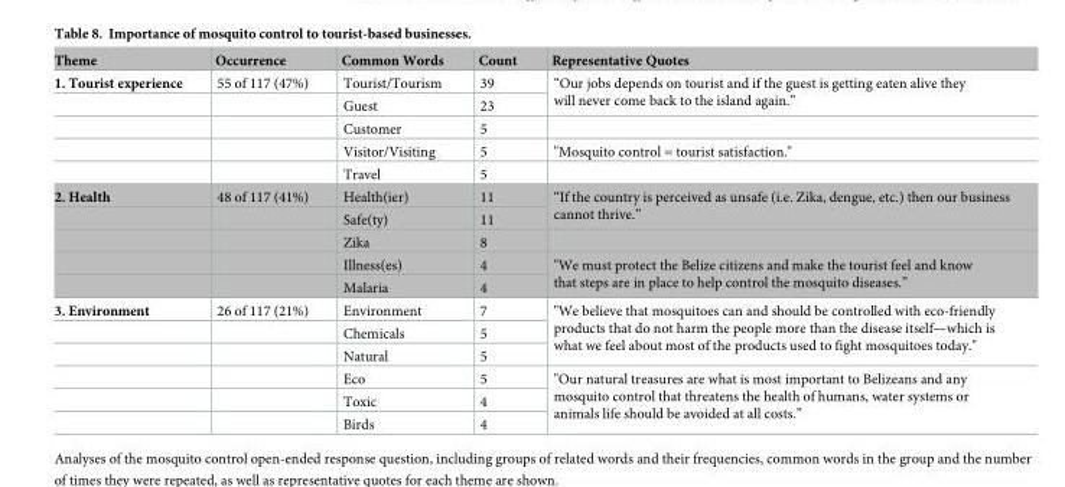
<table><thead><tr><td>Theme</td><td>Occurrence</td><td>Common Words</td><td>Count</td><td>Representative Quotes</td></tr></thead><tbody><tr><td rowspan="5">1. Tourist experience</td><td>55 of 117 (47%)</td><td>Tourist/Tourism</td><td>39</td><td rowspan="2">“Our jobs depends on tourist and if the guest is getting eaten alive they will never come back to the island again.”</td></tr><tr><td></td><td>Guest</td><td>23</td></tr><tr><td></td><td>Customer</td><td>5</td><td></td></tr><tr><td></td><td>Visitor/Visiting</td><td>5</td><td>&quot;Mosquito control = tourist satisfaction.&quot;</td></tr><tr><td></td><td>Travel</td><td>5</td><td></td></tr><tr><td rowspan="5">2. Health</td><td>48 of 117 (41%)</td><td>Health(ier)</td><td>11</td><td rowspan="2">“If the country is perceived as unsafe (i.e. Zika, dengue, etc.) then our business cannot thrive.”</td></tr><tr><td></td><td>Safe(ty)</td><td>11</td></tr><tr><td></td><td>Zika</td><td>8</td><td></td></tr><tr><td></td><td>Illness(es)</td><td>4</td><td rowspan="2">&quot;We must protect the Belize citizens and make the tourist feel and know that steps are in place to help control the mosquito diseases.”</td></tr><tr><td></td><td>Malaria</td><td>4</td></tr><tr><td rowspan="6">3. Environment</td><td>26 of 117 (21%)</td><td>Environment</td><td>7</td><td rowspan="3">&quot;We believe that mosquitoes can and should be controlled with eco-friendly products that do not harm the people more than the disease itself—which is what we feel about most of the products used to fight mosquitoes today.&quot;</td></tr><tr><td></td><td>Chemicals</td><td>5</td></tr><tr><td></td><td>Natural</td><td>5</td></tr><tr><td></td><td>Eco</td><td>5</td><td rowspan="3">&quot;Our natural treasures are what is most important to Belizeans and any mosquito control that threatens the health of humans, water systems or animals life should be avoided at all costs.”</td></tr><tr><td></td><td>Toxic</td><td>4</td></tr><tr><td></td><td>Birds</td><td>4</td></tr></tbody></table>